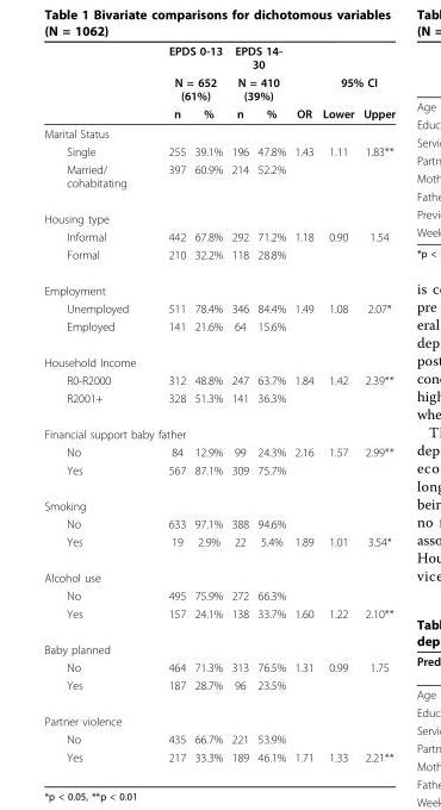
<table><thead><tr><td rowspan="3"></td><td rowspan="2" colspan="2">EPDS 0-13 N = 652 (61%)</td><td rowspan="2" colspan="2">EPDS 14- 30 N = 410 (39%)</td><td rowspan="3">OR</td><td></td><td></td></tr><tr><td colspan="2">95% CI</td></tr><tr><td>n</td><td>%</td><td>n</td><td>%</td><td>Lower</td><td>Upper</td></tr></thead><tbody><tr><td colspan="8">Marital Status</td></tr><tr><td>Single</td><td>255</td><td>39.1%</td><td>196</td><td>47.8%</td><td>1.43</td><td>1.11</td><td>1.83**</td></tr><tr><td>Married/ cohabitating</td><td>397</td><td>60.9%</td><td>214</td><td>52.2%</td><td></td><td></td><td></td></tr><tr><td colspan="8">Housing type</td></tr><tr><td>Informal</td><td>442</td><td>67.8%</td><td>292</td><td>71.2%</td><td>1.18</td><td>0.90</td><td>1.54</td></tr><tr><td>Formal</td><td>210</td><td>32.2%</td><td>118</td><td>28.8%</td><td></td><td></td><td></td></tr><tr><td colspan="8">Employment</td></tr><tr><td>Unemployed</td><td>511</td><td>78.4%</td><td>346</td><td>84.4%</td><td>1.49</td><td>1.08</td><td>2.07*</td></tr><tr><td>Employed</td><td>141</td><td>21.6%</td><td>64</td><td>15.6%</td><td></td><td></td><td></td></tr><tr><td colspan="8">Household Income</td></tr><tr><td>R0-R2000</td><td>312</td><td>48.8%</td><td>247</td><td>63.7%</td><td>1.84</td><td>1.42</td><td>2.39**</td></tr><tr><td>R2001+</td><td>328</td><td>51.3%</td><td>141</td><td>36.3%</td><td></td><td></td><td></td></tr><tr><td colspan="8">Financial support baby father</td></tr><tr><td>No</td><td>84</td><td>12.9%</td><td>99</td><td>24.3%</td><td>2.16</td><td>1.57</td><td>2.99**</td></tr><tr><td>Yes</td><td>567</td><td>87.1%</td><td>309</td><td>75.7%</td><td></td><td></td><td></td></tr><tr><td colspan="8">Smoking</td></tr><tr><td>No</td><td>633</td><td>97.1%</td><td>388</td><td>94.6%</td><td></td><td></td><td></td></tr><tr><td>Yes</td><td>19</td><td>2.9%</td><td>22</td><td>5.4%</td><td>1.89</td><td>1.01</td><td>3.54*</td></tr><tr><td colspan="8">Alcohol use</td></tr><tr><td>No</td><td>495</td><td>75.9%</td><td>272</td><td>66.3%</td><td></td><td></td><td></td></tr><tr><td>Yes</td><td>157</td><td>24.1%</td><td>138</td><td>33.7%</td><td>1.60</td><td>1.22</td><td>2.10**</td></tr><tr><td colspan="8">Baby planned</td></tr><tr><td>No</td><td>464</td><td>71.3%</td><td>313</td><td>76.5%</td><td>1.31</td><td>0.99</td><td>1.75</td></tr><tr><td>Yes</td><td>187</td><td>28.7%</td><td>96</td><td>23.5%</td><td></td><td></td><td></td></tr><tr><td colspan="8">Partner violence</td></tr><tr><td>No</td><td>435</td><td>66.7%</td><td>221</td><td>53.9%</td><td></td><td></td><td></td></tr><tr><td>Yes</td><td>217</td><td>33.3%</td><td>189</td><td>46.1%</td><td>1.71</td><td>1.33</td><td>2.21**</td></tr></tbody></table>